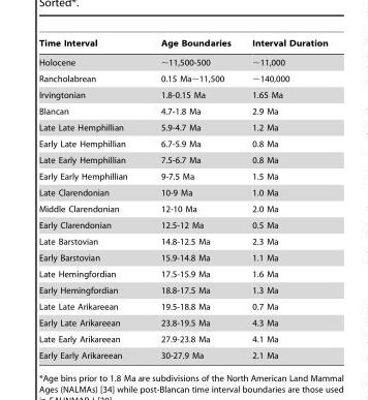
<table><thead><tr><td>Time Interval</td><td>Age Boundaries</td><td>Interval Duration</td></tr></thead><tbody><tr><td>Holocene</td><td>∼11,500-500</td><td>∼11,000</td></tr><tr><td>Rancholabrean</td><td>0.15 Ma∼11,500</td><td>∼140,000</td></tr><tr><td>Irvingtonian</td><td>1.8-0.15 Ma</td><td>1.65 Ma</td></tr><tr><td>Blancan</td><td>4.7-1.8 Ma</td><td>2.9 Ma</td></tr><tr><td>Late Late Hemphillian</td><td>5.9-4.7 Ma</td><td>1.2 Ma</td></tr><tr><td>Early Late Hemphillian</td><td>6.7-5.9 Ma</td><td>0.8 Ma</td></tr><tr><td>Late Early Hemphillian</td><td>7.5-6.7 Ma</td><td>0.8 Ma</td></tr><tr><td>Early Early Hemphillian</td><td>9-7.5 Ma</td><td>1.5 Ma</td></tr><tr><td>Late Clarendonian</td><td>10-9 Ma</td><td>1.0 Ma</td></tr><tr><td>Middle Clarendonian</td><td>12-10 Ma</td><td>2.0 Ma</td></tr><tr><td>Early Clarendonian</td><td>12.5-12 Ma</td><td>0.5 Ma</td></tr><tr><td>Late Barstovian</td><td>14.8-12.5 Ma</td><td>2.3 Ma</td></tr><tr><td>Early Barstovian</td><td>15.9-14.8 Ma</td><td>1.1 Ma</td></tr><tr><td>Late Hemingfordian</td><td>17.5-15.9 Ma</td><td>1.6 Ma</td></tr><tr><td>Early Hemingfordian</td><td>18.8-17.5 Ma</td><td>1.3 Ma</td></tr><tr><td>Late Late Arikareean</td><td>19.5-18.8 Ma</td><td>0.7 Ma</td></tr><tr><td>Early Late Arikareean</td><td>23.8-19.5 Ma</td><td>4.3 Ma</td></tr><tr><td>Late Early Arikareean</td><td>27.9-23.8 Ma</td><td>4.1 Ma</td></tr><tr><td>Early Early Arikareean</td><td>30-27.9 Ma</td><td>2.1 Ma</td></tr></tbody></table>